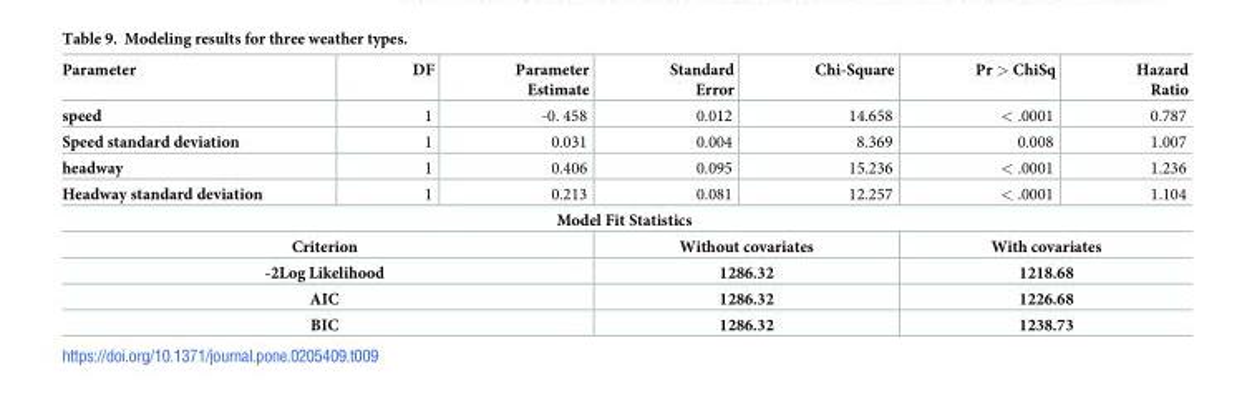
<table><thead><tr><td>Parameter</td><td>DF</td><td>Parameter Estimate</td><td>Standard Error</td><td>Chi-Square</td><td>Pr &gt; ChiSq</td><td>Hazard Ratio</td></tr></thead><tbody><tr><td>speed</td><td>1</td><td>-0. 458</td><td>0.012</td><td>14.658</td><td>&lt; .0001</td><td>0.787</td></tr><tr><td>Speed standard deviation</td><td>1</td><td>0.031</td><td>0.004</td><td>8.369</td><td>0.008</td><td>1.007</td></tr><tr><td>headway</td><td>1</td><td>0.406</td><td>0.095</td><td>15.236</td><td>&lt; .0001</td><td>1.236</td></tr><tr><td>Headway standard deviation</td><td>1</td><td>0.213</td><td>0.081</td><td>12.257</td><td>&lt; .0001</td><td>1.104</td></tr><tr><td colspan="7">Model Fit Statistics</td></tr><tr><td colspan="3">Criterion</td><td colspan="2">Without covariates</td><td colspan="2">With covariates</td></tr><tr><td colspan="3">-2Log Likelihood</td><td colspan="2">1286.32</td><td colspan="2">1218.68</td></tr><tr><td colspan="3">AIC</td><td colspan="2">1286.32</td><td colspan="2">1226.68</td></tr><tr><td colspan="3">BIC</td><td colspan="2">1286.32</td><td colspan="2">1238.73</td></tr></tbody></table>